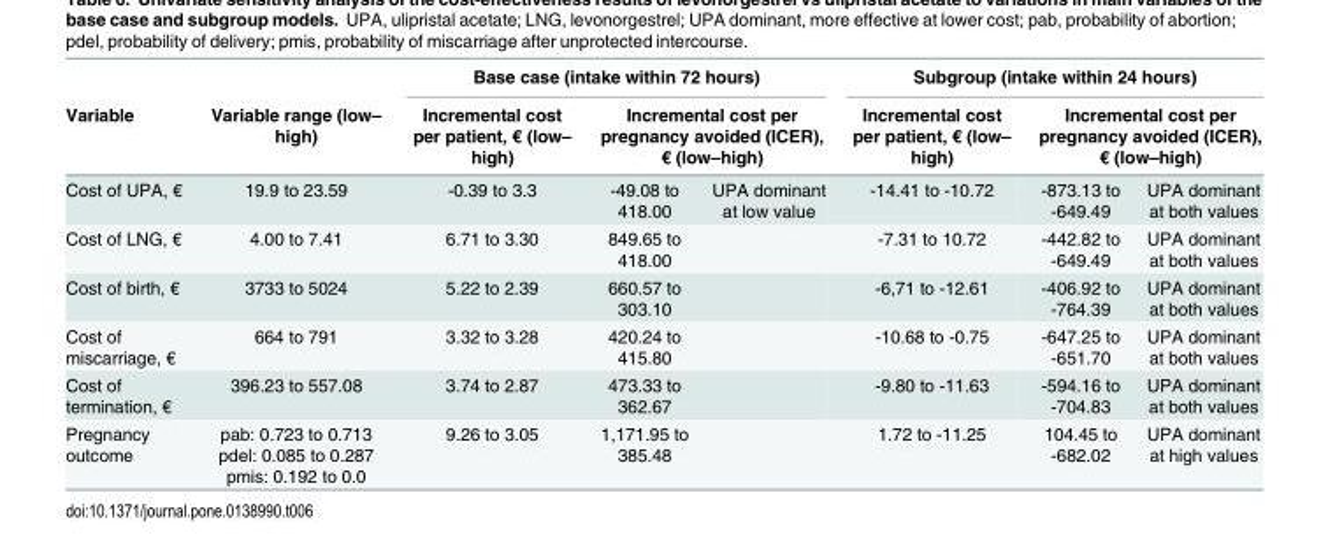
<table><thead><tr><td rowspan="3">Variable Cost of UPA, €</td><td rowspan="3">Variable range (low– high) 19.9 to 23.59</td><td colspan="3">Base case (intake within 72 hours)</td><td colspan="3">Subgroup (intake within 24 hours)</td></tr><tr><td rowspan="2">Incremental cost per patient, € (low– high) -0.39 to 3.3</td><td colspan="2">Incremental cost per pregnancy avoided (ICER), € (low–high)</td><td rowspan="2">Incremental cost per patient, € (low– high) -14.41 to -10.72</td><td colspan="2">Incremental cost per pregnancy avoided (ICER), € (low–high)</td></tr><tr><td>-49.08 to 418.00</td><td>UPA dominant at low value</td><td>-873.13 to -649.49</td><td>UPA dominant at both values</td></tr></thead><tbody><tr><td>Cost of LNG, €</td><td>4.00 to 7.41</td><td>6.71 to 3.30</td><td>849.65 to 418.00</td><td></td><td>-7.31 to 10.72</td><td>-442.82 to -649.49</td><td>UPA dominant at both values</td></tr><tr><td>Cost of birth, €</td><td>3733 to 5024</td><td>5.22 to 2.39</td><td>660.57 to 303.10</td><td></td><td>-6,71 to -12.61</td><td>-406.92 to -764.39</td><td>UPA dominant at both values</td></tr><tr><td>Cost of miscarriage, €</td><td>664 to 791</td><td>3.32 to 3.28</td><td>420.24 to 415.80</td><td></td><td>-10.68 to -0.75</td><td>-647.25 to -651.70</td><td>UPA dominant at both values</td></tr><tr><td>Cost of termination, €</td><td>396.23 to 557.08</td><td>3.74 to 2.87</td><td>473.33 to 362.67</td><td></td><td>-9.80 to -11.63</td><td>-594.16 to -704.83</td><td>UPA dominant at both values</td></tr><tr><td>Pregnancy outcome</td><td>pab: 0.723 to 0.713 pdel: 0.085 to 0.287 pmis: 0.192 to 0.0</td><td>9.26 to 3.05</td><td>1,171.95 to 385.48</td><td></td><td>1.72 to -11.25</td><td>104.45 to -682.02</td><td>UPA dominant at high values</td></tr></tbody></table>